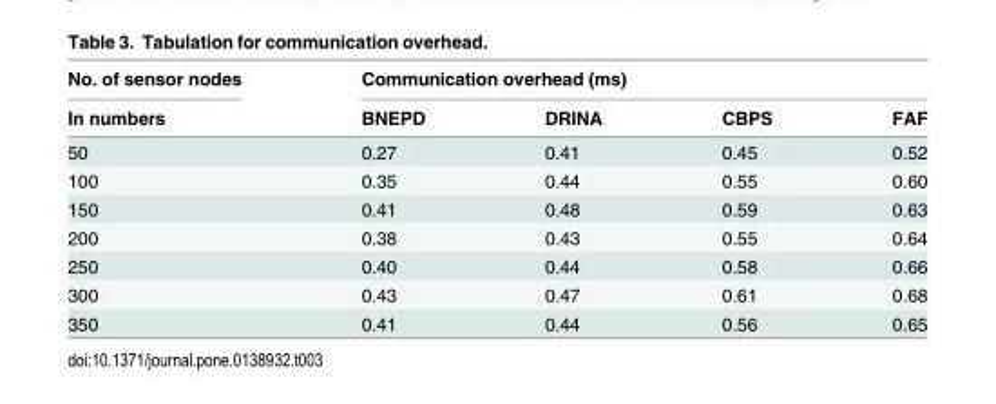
<table><thead><tr><td rowspan="2">No. of sensor nodes In numbers</td><td colspan="4">Communication overhead (ms)</td></tr><tr><td>BNEPD</td><td>DRINA</td><td>CBPS</td><td>FAF</td></tr></thead><tbody><tr><td>50</td><td>0.27</td><td>0.41</td><td>0.45</td><td>0.52</td></tr><tr><td>100</td><td>0.35</td><td>0.44</td><td>0.55</td><td>0.60</td></tr><tr><td>150</td><td>0.41</td><td>0.48</td><td>0.59</td><td>0.63</td></tr><tr><td>200</td><td>0.38</td><td>0.43</td><td>0.55</td><td>0.64</td></tr><tr><td>250</td><td>0.40</td><td>0.44</td><td>0.58</td><td>0.66</td></tr><tr><td>300</td><td>0.43</td><td>0.47</td><td>0.61</td><td>0.68</td></tr><tr><td>350</td><td>0.41</td><td>0.44</td><td>0.56</td><td>0.65</td></tr></tbody></table>